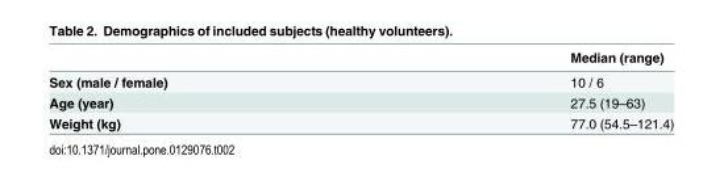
<table><thead><tr><td></td><td>Median (range)</td></tr></thead><tbody><tr><td>Sex (male / female)</td><td>10 / 6</td></tr><tr><td>Age (year)</td><td>27.5 (19–63)</td></tr><tr><td>Weight (kg)</td><td>77.0 (54.5–121.4)</td></tr></tbody></table>